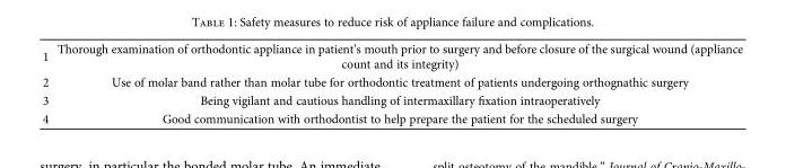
<table><tbody><tr><td>1</td><td>Thorough examination of orthodontic appliance in patient’s mouth prior to surgery and before closure of the surgical wound (appliance count and its integrity)</td></tr><tr><td>2</td><td>Use of molar band rather than molar tube for orthodontic treatment of patients undergoing orthognathic surgery</td></tr><tr><td>3</td><td>Being vigilant and cautious handling of intermaxillary fixation intraoperatively</td></tr><tr><td>4</td><td>Good communication with orthodontist to help prepare the patient for the scheduled surgery</td></tr></tbody></table>